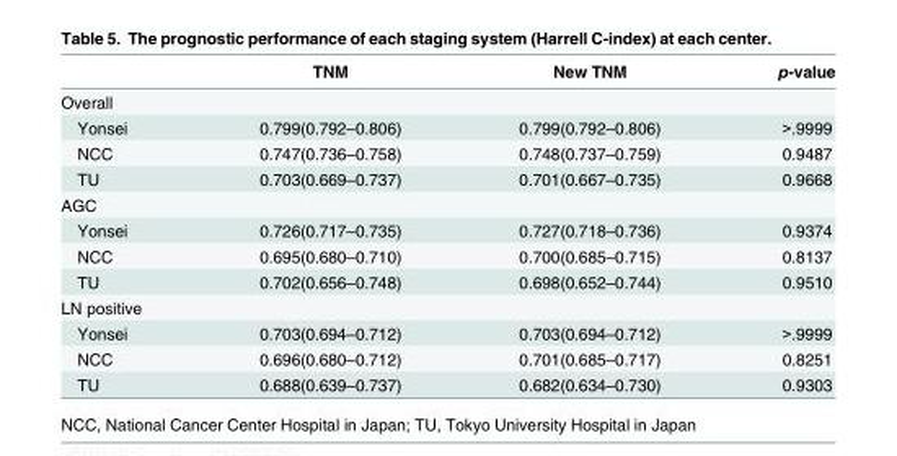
<table><thead><tr><td></td><td>TNM</td><td>New TNM</td><td>p-value</td></tr></thead><tbody><tr><td colspan="4">Overall</td></tr><tr><td>Yonsei</td><td>0.799(0.792–0.806)</td><td>0.799(0.792–0.806)</td><td>&gt;.9999</td></tr><tr><td>NCC</td><td>0.747(0.736–0.758)</td><td>0.748(0.737–0.759)</td><td>0.9487</td></tr><tr><td>TU</td><td>0.703(0.669–0.737)</td><td>0.701(0.667–0.735)</td><td>0.9668</td></tr><tr><td colspan="4">AGC</td></tr><tr><td>Yonsei</td><td>0.726(0.717–0.735)</td><td>0.727(0.718–0.736)</td><td>0.9374</td></tr><tr><td>NCC</td><td>0.695(0.680–0.710)</td><td>0.700(0.685–0.715)</td><td>0.8137</td></tr><tr><td>TU</td><td>0.702(0.656–0.748)</td><td>0.698(0.652–0.744)</td><td>0.9510</td></tr><tr><td colspan="4">LN positive</td></tr><tr><td>Yonsei</td><td>0.703(0.694–0.712)</td><td>0.703(0.694–0.712)</td><td>&gt;.9999</td></tr><tr><td>NCC</td><td>0.696(0.680–0.712)</td><td>0.701(0.685–0.717)</td><td>0.8251</td></tr><tr><td>TU</td><td>0.688(0.639–0.737)</td><td>0.682(0.634–0.730)</td><td>0.9303</td></tr></tbody></table>